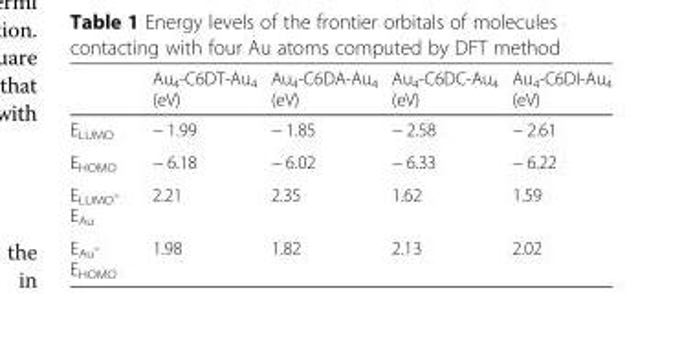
<table><thead><tr><td></td><td>Au<sub>4</sub>-C6DT-Au<sub>4</sub> (eV)</td><td>Au<sub>4</sub>-C6DA-Au<sub>4</sub> (eV)</td><td>Au<sub>4</sub>-C6DC-Au<sub>4</sub> (eV)</td><td>Au<sub>4</sub>-C6DI-Au<sub>4</sub> (eV)</td></tr></thead><tbody><tr><td>E<sub>LUMO</sub></td><td>− 1.99</td><td>− 1.85</td><td>− 2.58</td><td>− 2.61</td></tr><tr><td>E<sub>HOMO</sub></td><td>− 6.18</td><td>− 6.02</td><td>− 6.33</td><td>− 6.22</td></tr><tr><td>E<sub>LUMO</sub>- E<sub>Au</sub></td><td>2.21</td><td>2.35</td><td>1.62</td><td>1.59</td></tr><tr><td>E<sub>Au</sub>- E<sub>HOMO</sub></td><td>1.98</td><td>1.82</td><td>2.13</td><td>2.02</td></tr></tbody></table>